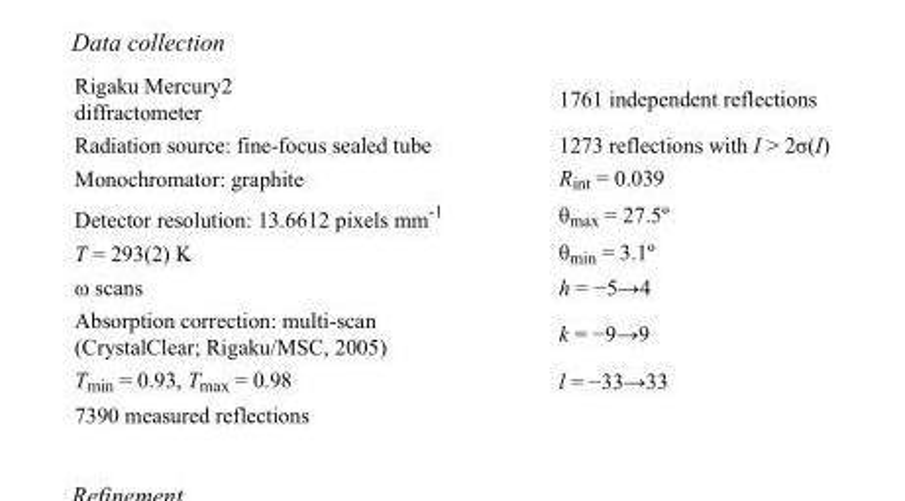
<table><tbody><tr><td>Rigaku Mercury2 diffractometer</td><td>1761 independent reflections</td></tr><tr><td>Radiation source: fine-focus sealed tube</td><td>1273 reflections with I &gt; 2σ(I)</td></tr><tr><td>Monochromator: graphite</td><td>R<sub>int</sub> = 0.039</td></tr><tr><td>Detector resolution: 13.6612 pixels mm<sup>-1</sup></td><td>θ<sub>max</sub> = 27.5º</td></tr><tr><td>T = 293(2) K</td><td>θ<sub>min</sub> = 3.1º</td></tr><tr><td>ω scans</td><td>h = −5→4</td></tr><tr><td>Absorption correction: multi-scan (CrystalClear; Rigaku/MSC, 2005)</td><td>k = −9→9</td></tr><tr><td>T<sub>min</sub> = 0.93, T<sub>max</sub> = 0.98</td><td>l = −33→33</td></tr><tr><td>7390 measured reflections</td><td></td></tr></tbody></table>